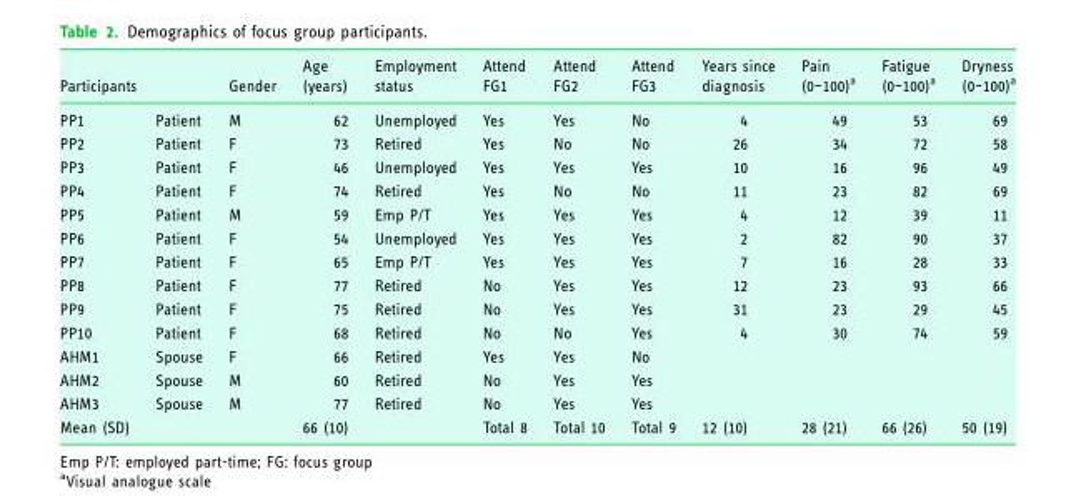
<table><thead><tr><td colspan="2">Participants</td><td rowspan="2">Gender M</td><td rowspan="2">Age (years) 62</td><td rowspan="2">Employment status Unemployed</td><td rowspan="2">Attend FG1 Yes</td><td rowspan="2">Attend FG2 Yes</td><td rowspan="2">Attend FG3 No</td><td rowspan="2">Years since diagnosis 4</td><td rowspan="2">Pain (0–100)<sup>a</sup> 49</td><td rowspan="2">Fatigue (0–100)<sup>a</sup> 53</td><td rowspan="2">Dryness (0–100)<sup>a</sup> 69</td></tr><tr><td>PP1</td><td>Patient</td></tr></thead><tbody><tr><td>PP2</td><td>Patient</td><td>F</td><td>73</td><td>Retired</td><td>Yes</td><td>No</td><td>No</td><td>26</td><td>34</td><td>72</td><td>58</td></tr><tr><td>PP3</td><td>Patient</td><td>F</td><td>46</td><td>Unemployed</td><td>Yes</td><td>Yes</td><td>Yes</td><td>10</td><td>16</td><td>96</td><td>49</td></tr><tr><td>PP4</td><td>Patient</td><td>F</td><td>74</td><td>Retired</td><td>Yes</td><td>No</td><td>No</td><td>11</td><td>23</td><td>82</td><td>69</td></tr><tr><td>PP5</td><td>Patient</td><td>M</td><td>59</td><td>Emp P/T</td><td>Yes</td><td>Yes</td><td>Yes</td><td>4</td><td>12</td><td>39</td><td>11</td></tr><tr><td>PP6</td><td>Patient</td><td>F</td><td>54</td><td>Unemployed</td><td>Yes</td><td>Yes</td><td>Yes</td><td>2</td><td>82</td><td>90</td><td>37</td></tr><tr><td>PP7</td><td>Patient</td><td>F</td><td>65</td><td>Emp P/T</td><td>Yes</td><td>Yes</td><td>Yes</td><td>7</td><td>16</td><td>28</td><td>33</td></tr><tr><td>PP8</td><td>Patient</td><td>F</td><td>77</td><td>Retired</td><td>No</td><td>Yes</td><td>Yes</td><td>12</td><td>23</td><td>93</td><td>66</td></tr><tr><td>PP9</td><td>Patient</td><td>F</td><td>75</td><td>Retired</td><td>No</td><td>Yes</td><td>Yes</td><td>31</td><td>23</td><td>29</td><td>45</td></tr><tr><td>PP10</td><td>Patient</td><td>F</td><td>68</td><td>Retired</td><td>No</td><td>No</td><td>Yes</td><td>4</td><td>30</td><td>74</td><td>59</td></tr><tr><td>AHM1</td><td>Spouse</td><td>F</td><td>66</td><td>Retired</td><td>Yes</td><td>Yes</td><td>No</td><td></td><td></td><td></td><td></td></tr><tr><td>AHM2</td><td>Spouse</td><td>M</td><td>60</td><td>Retired</td><td>No</td><td>Yes</td><td>Yes</td><td></td><td></td><td></td><td></td></tr><tr><td>AHM3</td><td>Spouse</td><td>M</td><td>77</td><td>Retired</td><td>No</td><td>Yes</td><td>Yes</td><td></td><td></td><td></td><td></td></tr><tr><td>Mean (SD)</td><td></td><td></td><td>66 (10)</td><td></td><td>Total 8</td><td>Total 10</td><td>Total 9</td><td>12 (10)</td><td>28 (21)</td><td>66 (26)</td><td>50 (19)</td></tr></tbody></table>